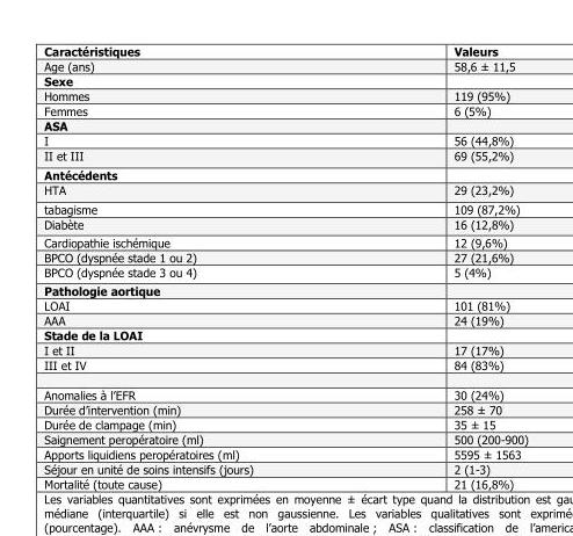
<table><thead><tr><td>Caractéristiques</td><td>Valeurs</td></tr></thead><tbody><tr><td>Age (ans)</td><td>58,6 ± 11,5</td></tr><tr><td colspan="2">Sexe</td></tr><tr><td>Hommes</td><td>119 (95%)</td></tr><tr><td>Femmes</td><td>6 (5%)</td></tr><tr><td colspan="2">ASA</td></tr><tr><td>I</td><td>56 (44,8%)</td></tr><tr><td>II et III</td><td>69 (55,2%)</td></tr><tr><td colspan="2">Antécédents</td></tr><tr><td>HTA</td><td>29 (23,2%)</td></tr><tr><td>tabagisme</td><td>109 (87,2%)</td></tr><tr><td>Diabète</td><td>16 (12,8%)</td></tr><tr><td>Cardiopathie ischémique</td><td>12 (9,6%)</td></tr><tr><td>BPCO (dyspnée stade 1 ou 2)</td><td>27 (21,6%)</td></tr><tr><td>BPCO (dyspnée stade 3 ou 4)</td><td>5 (4%)</td></tr><tr><td colspan="2">Pathologie aortique</td></tr><tr><td>LOAI</td><td>101 (81%)</td></tr><tr><td>AAA</td><td>24 (19%)</td></tr><tr><td colspan="2">Stade de la LOAI</td></tr><tr><td>I et II</td><td>17 (17%)</td></tr><tr><td>III et IV</td><td>84 (83%)</td></tr><tr><td>Anomalies à l’EFR</td><td>30 (24%)</td></tr><tr><td>Durée d’intervention (min)</td><td>258 ± 70</td></tr><tr><td>Durée de clampage (min)</td><td>35 ± 15</td></tr><tr><td>Saignement peropératoire (ml)</td><td>500 (200-900)</td></tr><tr><td>Apports liquidiens peropératoires (ml)</td><td>5595 ± 1563</td></tr><tr><td>Séjour en unité de soins intensifs (jours)</td><td>2 (1-3)</td></tr><tr><td>Mortalité (toute cause)</td><td>21 (16,8%)</td></tr></tbody></table>